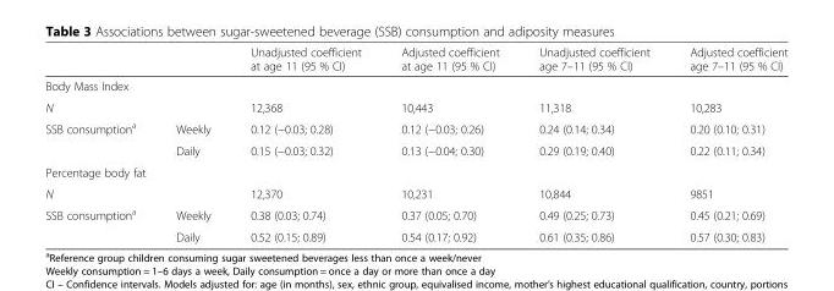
<table><thead><tr><td></td><td></td><td>Unadjusted coefficient at age 11 (95 % CI)</td><td>Adjusted coefficient at age 11 (95 % CI)</td><td>Unadjusted coefficient age 7–11 (95 % CI)</td><td>Adjusted coefficient age 7–11 (95 % CI)</td></tr></thead><tbody><tr><td colspan="6">Body Mass Index</td></tr><tr><td>N</td><td></td><td>12,368</td><td>10,443</td><td>11,318</td><td>10,283</td></tr><tr><td rowspan="2">SSB consumption<sup>a</sup></td><td>Weekly</td><td>0.12 (−0.03; 0.28)</td><td>0.12 (−0.03; 0.26)</td><td>0.24 (0.14; 0.34)</td><td>0.20 (0.10; 0.31)</td></tr><tr><td>Daily</td><td>0.15 (−0.03; 0.32)</td><td>0.13 (−0.04; 0.30)</td><td>0.29 (0.19; 0.40)</td><td>0.22 (0.11; 0.34)</td></tr><tr><td colspan="6">Percentage body fat</td></tr><tr><td>N</td><td></td><td>12,370</td><td>10,231</td><td>10,844</td><td>9851</td></tr><tr><td rowspan="2">SSB consumption<sup>a</sup></td><td>Weekly</td><td>0.38 (0.03; 0.74)</td><td>0.37 (0.05; 0.70)</td><td>0.49 (0.25; 0.73)</td><td>0.45 (0.21; 0.69)</td></tr><tr><td>Daily</td><td>0.52 (0.15; 0.89)</td><td>0.54 (0.17; 0.92)</td><td>0.61 (0.35; 0.86)</td><td>0.57 (0.30; 0.83)</td></tr></tbody></table>